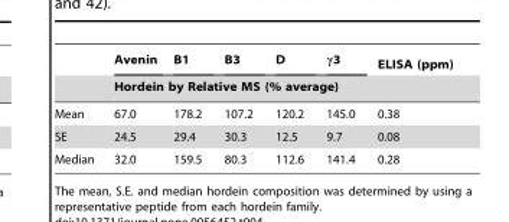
<table><thead><tr><td rowspan="2"></td><td>Avenin</td><td>B1</td><td>B3</td><td>D</td><td>γ3</td><td rowspan="2">ELISA (ppm)</td></tr><tr><td colspan="5">Hordein by Relative MS (% average)</td></tr></thead><tbody><tr><td>Mean</td><td>67.0</td><td>178.2</td><td>107.2</td><td>120.2</td><td>145.0</td><td>0.38</td></tr><tr><td>SE</td><td>24.5</td><td>29.4</td><td>30.3</td><td>12.5</td><td>9.7</td><td>0.08</td></tr><tr><td>Median</td><td>32.0</td><td>159.5</td><td>80.3</td><td>112.6</td><td>141.4</td><td>0.28</td></tr></tbody></table>